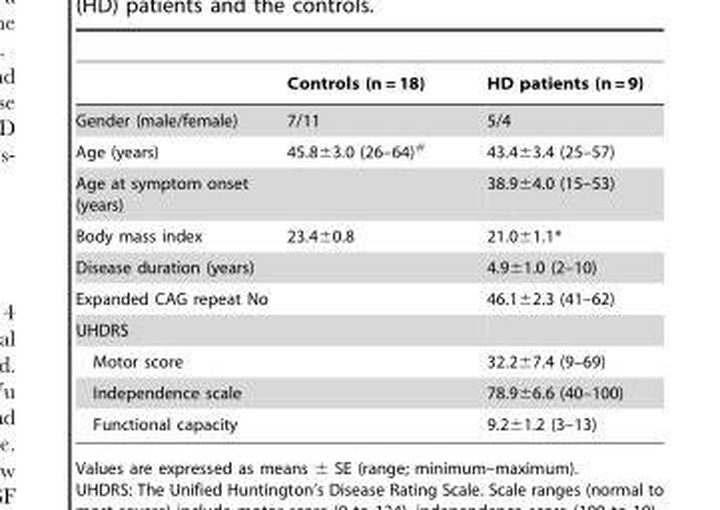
<table><thead><tr><td></td><td>Controls (n = 18)</td><td>HD patients (n = 9)</td></tr></thead><tbody><tr><td>Gender (male/female)</td><td>7/11</td><td>5/4</td></tr><tr><td>Age (years)</td><td>45.8±3.0 (26–64)#</td><td>43.4±3.4 (25–57)</td></tr><tr><td>Age at symptom onset (years)</td><td></td><td>38.9±4.0 (15–53)</td></tr><tr><td>Body mass index</td><td>23.4±0.8</td><td>21.0±1.1*</td></tr><tr><td>Disease duration (years)</td><td></td><td>4.9±1.0 (2–10)</td></tr><tr><td>Expanded CAG repeat No</td><td></td><td>46.1±2.3 (41–62)</td></tr><tr><td colspan="3">UHDRS</td></tr><tr><td>Motor score</td><td></td><td>32.2±7.4 (9–69)</td></tr><tr><td>Independence scale</td><td></td><td>78.9±6.6 (40–100)</td></tr><tr><td>Functional capacity</td><td></td><td>9.2±1.2 (3–13)</td></tr></tbody></table>